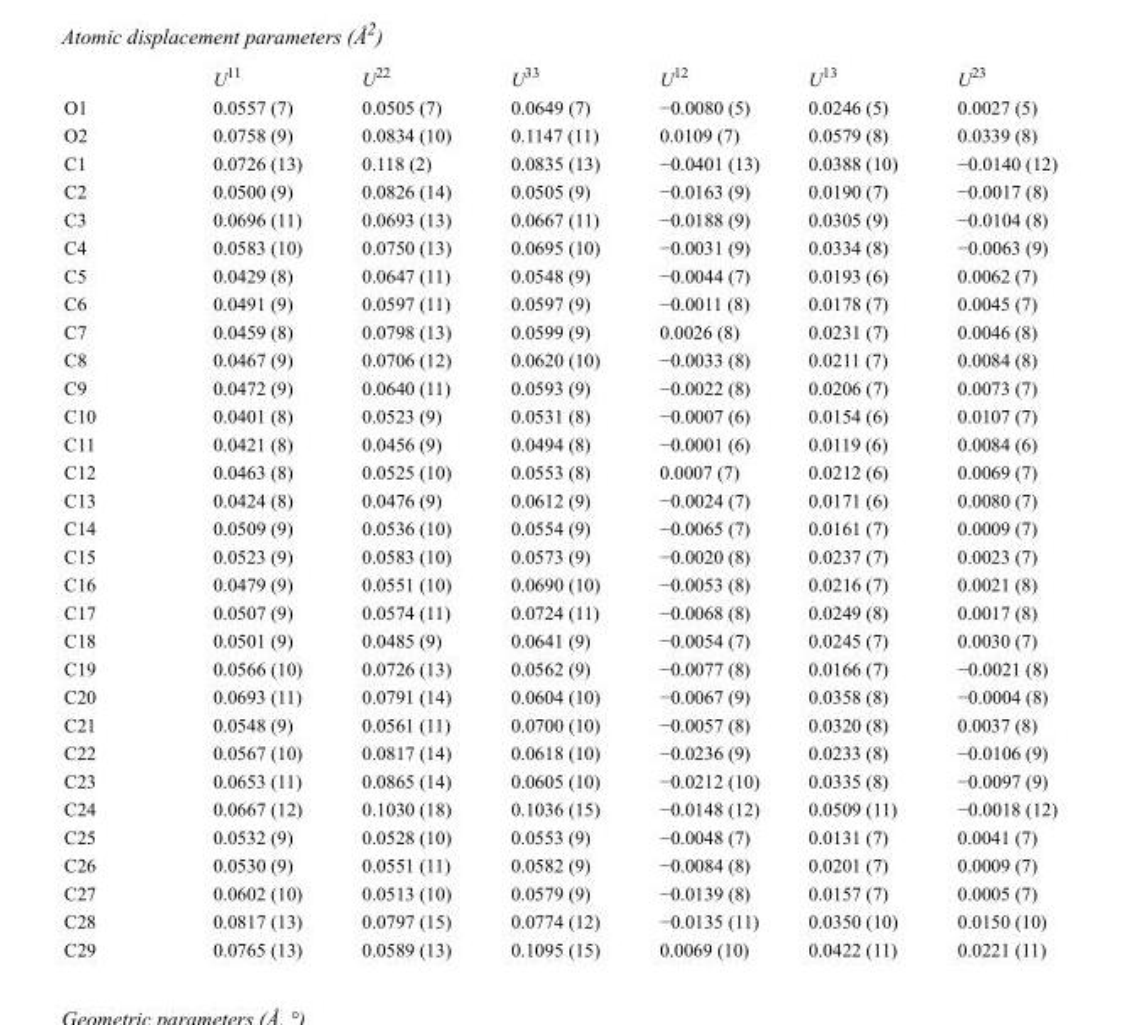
<table><thead><tr><td></td><td>U<sup>11</sup></td><td>U<sup>22</sup></td><td>U<sup>33</sup></td><td>U<sup>12</sup></td><td>U<sup>13</sup></td><td>U<sup>23</sup></td></tr></thead><tbody><tr><td>O1</td><td>0.0557 (7)</td><td>0.0505 (7)</td><td>0.0649 (7)</td><td>−0.0080 (5)</td><td>0.0246 (5)</td><td>0.0027 (5)</td></tr><tr><td>O2</td><td>0.0758 (9)</td><td>0.0834 (10)</td><td>0.1147 (11)</td><td>0.0109 (7)</td><td>0.0579 (8)</td><td>0.0339 (8)</td></tr><tr><td>C1</td><td>0.0726 (13)</td><td>0.118 (2)</td><td>0.0835 (13)</td><td>−0.0401 (13)</td><td>0.0388 (10)</td><td>−0.0140 (12)</td></tr><tr><td>C2</td><td>0.0500 (9)</td><td>0.0826 (14)</td><td>0.0505 (9)</td><td>−0.0163 (9)</td><td>0.0190 (7)</td><td>−0.0017 (8)</td></tr><tr><td>C3</td><td>0.0696 (11)</td><td>0.0693 (13)</td><td>0.0667 (11)</td><td>−0.0188 (9)</td><td>0.0305 (9)</td><td>−0.0104 (8)</td></tr><tr><td>C4</td><td>0.0583 (10)</td><td>0.0750 (13)</td><td>0.0695 (10)</td><td>−0.0031 (9)</td><td>0.0334 (8)</td><td>−0.0063 (9)</td></tr><tr><td>C5</td><td>0.0429 (8)</td><td>0.0647 (11)</td><td>0.0548 (9)</td><td>−0.0044 (7)</td><td>0.0193 (6)</td><td>0.0062 (7)</td></tr><tr><td>C6</td><td>0.0491 (9)</td><td>0.0597 (11)</td><td>0.0597 (9)</td><td>−0.0011 (8)</td><td>0.0178 (7)</td><td>0.0045 (7)</td></tr><tr><td>C7</td><td>0.0459 (8)</td><td>0.0798 (13)</td><td>0.0599 (9)</td><td>0.0026 (8)</td><td>0.0231 (7)</td><td>0.0046 (8)</td></tr><tr><td>C8</td><td>0.0467 (9)</td><td>0.0706 (12)</td><td>0.0620 (10)</td><td>−0.0033 (8)</td><td>0.0211 (7)</td><td>0.0084 (8)</td></tr><tr><td>C9</td><td>0.0472 (9)</td><td>0.0640 (11)</td><td>0.0593 (9)</td><td>−0.0022 (8)</td><td>0.0206 (7)</td><td>0.0073 (7)</td></tr><tr><td>C10</td><td>0.0401 (8)</td><td>0.0523 (9)</td><td>0.0531 (8)</td><td>−0.0007 (6)</td><td>0.0154 (6)</td><td>0.0107 (7)</td></tr><tr><td>C11</td><td>0.0421 (8)</td><td>0.0456 (9)</td><td>0.0494 (8)</td><td>−0.0001 (6)</td><td>0.0119 (6)</td><td>0.0084 (6)</td></tr><tr><td>C12</td><td>0.0463 (8)</td><td>0.0525 (10)</td><td>0.0553 (8)</td><td>0.0007 (7)</td><td>0.0212 (6)</td><td>0.0069 (7)</td></tr><tr><td>C13</td><td>0.0424 (8)</td><td>0.0476 (9)</td><td>0.0612 (9)</td><td>−0.0024 (7)</td><td>0.0171 (6)</td><td>0.0080 (7)</td></tr><tr><td>C14</td><td>0.0509 (9)</td><td>0.0536 (10)</td><td>0.0554 (9)</td><td>−0.0065 (7)</td><td>0.0161 (7)</td><td>0.0009 (7)</td></tr><tr><td>C15</td><td>0.0523 (9)</td><td>0.0583 (10)</td><td>0.0573 (9)</td><td>−0.0020 (8)</td><td>0.0237 (7)</td><td>0.0023 (7)</td></tr><tr><td>C16</td><td>0.0479 (9)</td><td>0.0551 (10)</td><td>0.0690 (10)</td><td>−0.0053 (8)</td><td>0.0216 (7)</td><td>0.0021 (8)</td></tr><tr><td>C17</td><td>0.0507 (9)</td><td>0.0574 (11)</td><td>0.0724 (11)</td><td>−0.0068 (8)</td><td>0.0249 (8)</td><td>0.0017 (8)</td></tr><tr><td>C18</td><td>0.0501 (9)</td><td>0.0485 (9)</td><td>0.0641 (9)</td><td>−0.0054 (7)</td><td>0.0245 (7)</td><td>0.0030 (7)</td></tr><tr><td>C19</td><td>0.0566 (10)</td><td>0.0726 (13)</td><td>0.0562 (9)</td><td>−0.0077 (8)</td><td>0.0166 (7)</td><td>−0.0021 (8)</td></tr><tr><td>C20</td><td>0.0693 (11)</td><td>0.0791 (14)</td><td>0.0604 (10)</td><td>−0.0067 (9)</td><td>0.0358 (8)</td><td>−0.0004 (8)</td></tr><tr><td>C21</td><td>0.0548 (9)</td><td>0.0561 (11)</td><td>0.0700 (10)</td><td>−0.0057 (8)</td><td>0.0320 (8)</td><td>0.0037 (8)</td></tr><tr><td>C22</td><td>0.0567 (10)</td><td>0.0817 (14)</td><td>0.0618 (10)</td><td>−0.0236 (9)</td><td>0.0233 (8)</td><td>−0.0106 (9)</td></tr><tr><td>C23</td><td>0.0653 (11)</td><td>0.0865 (14)</td><td>0.0605 (10)</td><td>−0.0212 (10)</td><td>0.0335 (8)</td><td>−0.0097 (9)</td></tr><tr><td>C24</td><td>0.0667 (12)</td><td>0.1030 (18)</td><td>0.1036 (15)</td><td>−0.0148 (12)</td><td>0.0509 (11)</td><td>−0.0018 (12)</td></tr><tr><td>C25</td><td>0.0532 (9)</td><td>0.0528 (10)</td><td>0.0553 (9)</td><td>−0.0048 (7)</td><td>0.0131 (7)</td><td>0.0041 (7)</td></tr><tr><td>C26</td><td>0.0530 (9)</td><td>0.0551 (11)</td><td>0.0582 (9)</td><td>−0.0084 (8)</td><td>0.0201 (7)</td><td>0.0009 (7)</td></tr><tr><td>C27</td><td>0.0602 (10)</td><td>0.0513 (10)</td><td>0.0579 (9)</td><td>−0.0139 (8)</td><td>0.0157 (7)</td><td>0.0005 (7)</td></tr><tr><td>C28</td><td>0.0817 (13)</td><td>0.0797 (15)</td><td>0.0774 (12)</td><td>−0.0135 (11)</td><td>0.0350 (10)</td><td>0.0150 (10)</td></tr><tr><td>C29</td><td>0.0765 (13)</td><td>0.0589 (13)</td><td>0.1095 (15)</td><td>0.0069 (10)</td><td>0.0422 (11)</td><td>0.0221 (11)</td></tr></tbody></table>